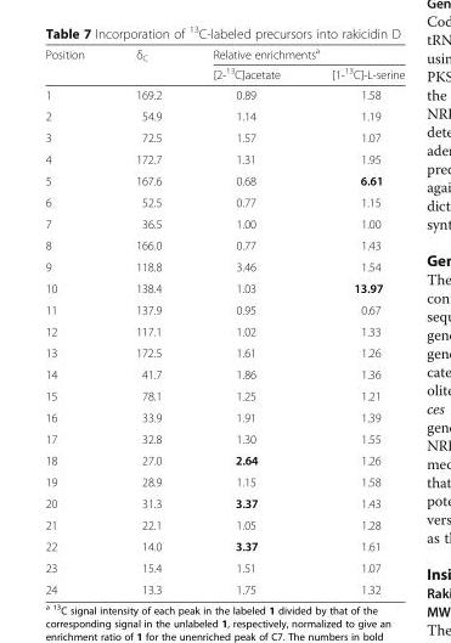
<table><thead><tr><td rowspan="2">Position</td><td rowspan="2">δ<sub>C</sub></td><td colspan="2">Relative enrichments<sup>a</sup></td></tr><tr><td>[2-<sup>13</sup>C]acetate</td><td>[1-<sup>13</sup>C]-L-serine</td></tr></thead><tbody><tr><td>1</td><td>169.2</td><td>0.89</td><td>1.58</td></tr><tr><td>2</td><td>54.9</td><td>1.14</td><td>1.19</td></tr><tr><td>3</td><td>72.5</td><td>1.57</td><td>1.07</td></tr><tr><td>4</td><td>172.7</td><td>1.31</td><td>1.95</td></tr><tr><td>5</td><td>167.6</td><td>0.68</td><td>6.61</td></tr><tr><td>6</td><td>52.5</td><td>0.77</td><td>1.15</td></tr><tr><td>7</td><td>36.5</td><td>1.00</td><td>1.00</td></tr><tr><td>8</td><td>166.0</td><td>0.77</td><td>1.43</td></tr><tr><td>9</td><td>118.8</td><td>3.46</td><td>1.54</td></tr><tr><td>10</td><td>138.4</td><td>1.03</td><td>13.97</td></tr><tr><td>11</td><td>137.9</td><td>0.95</td><td>0.67</td></tr><tr><td>12</td><td>117.1</td><td>1.02</td><td>1.33</td></tr><tr><td>13</td><td>172.5</td><td>1.61</td><td>1.26</td></tr><tr><td>14</td><td>41.7</td><td>1.86</td><td>1.36</td></tr><tr><td>15</td><td>78.1</td><td>1.25</td><td>1.21</td></tr><tr><td>16</td><td>33.9</td><td>1.91</td><td>1.39</td></tr><tr><td>17</td><td>32.8</td><td>1.30</td><td>1.55</td></tr><tr><td>18</td><td>27.0</td><td>2.64</td><td>1.26</td></tr><tr><td>19</td><td>28.9</td><td>1.15</td><td>1.58</td></tr><tr><td>20</td><td>31.3</td><td>3.37</td><td>1.43</td></tr><tr><td>21</td><td>22.1</td><td>1.05</td><td>1.28</td></tr><tr><td>22</td><td>14.0</td><td>3.37</td><td>1.61</td></tr><tr><td>23</td><td>15.4</td><td>1.51</td><td>1.07</td></tr><tr><td>24</td><td>13.3</td><td>1.75</td><td>1.32</td></tr></tbody></table>